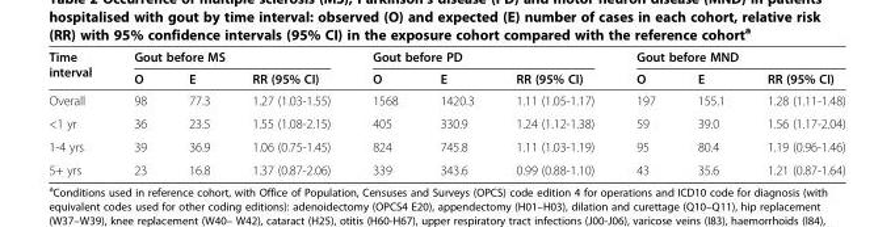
<table><thead><tr><td rowspan="2">Time interval</td><td colspan="3">Gout before MS</td><td colspan="3">Gout before PD</td><td colspan="3">Gout before MND</td></tr><tr><td>O</td><td>E</td><td>RR (95% CI)</td><td>O</td><td>E</td><td>RR (95% CI)</td><td>O</td><td>E</td><td>RR (95% CI)</td></tr></thead><tbody><tr><td>Overall</td><td>98</td><td>77.3</td><td>1.27 (1.03-1.55)</td><td>1568</td><td>1420.3</td><td>1.11 (1.05-1.17)</td><td>197</td><td>155.1</td><td>1.28 (1.11-1.48)</td></tr><tr><td>&lt;1 yr</td><td>36</td><td>23.5</td><td>1.55 (1.08-2.15)</td><td>405</td><td>330.9</td><td>1.24 (1.12-1.38)</td><td>59</td><td>39.0</td><td>1.56 (1.17-2.04)</td></tr><tr><td>1-4 yrs</td><td>39</td><td>36.9</td><td>1.06 (0.75-1.45)</td><td>824</td><td>745.8</td><td>1.11 (1.03-1.19)</td><td>95</td><td>80.4</td><td>1.19 (0.96-1.46)</td></tr><tr><td>5+ yrs</td><td>23</td><td>16.8</td><td>1.37 (0.87-2.06)</td><td>339</td><td>343.6</td><td>0.99 (0.88-1.10)</td><td>43</td><td>35.6</td><td>1.21 (0.87-1.64)</td></tr></tbody></table>